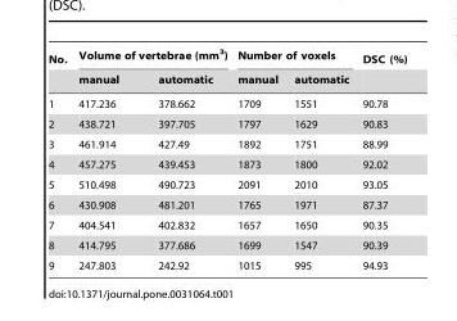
<table><thead><tr><td rowspan="2">No.</td><td colspan="2">Volume of vertebrae (mm<sup>3</sup>)</td><td colspan="2">Number of voxels</td><td rowspan="2">DSC (%)</td></tr><tr><td>manual</td><td>automatic</td><td>manual</td><td>automatic</td></tr></thead><tbody><tr><td>1</td><td>417.236</td><td>378.662</td><td>1709</td><td>1551</td><td>90.78</td></tr><tr><td>2</td><td>438.721</td><td>397.705</td><td>1797</td><td>1629</td><td>90.83</td></tr><tr><td>3</td><td>461.914</td><td>427.49</td><td>1892</td><td>1751</td><td>88.99</td></tr><tr><td>4</td><td>457.275</td><td>439.453</td><td>1873</td><td>1800</td><td>92.02</td></tr><tr><td>5</td><td>510.498</td><td>490.723</td><td>2091</td><td>2010</td><td>93.05</td></tr><tr><td>6</td><td>430.908</td><td>481.201</td><td>1765</td><td>1971</td><td>87.37</td></tr><tr><td>7</td><td>404.541</td><td>402.832</td><td>1657</td><td>1650</td><td>90.35</td></tr><tr><td>8</td><td>414.795</td><td>377.686</td><td>1699</td><td>1547</td><td>90.39</td></tr><tr><td>9</td><td>247.803</td><td>242.92</td><td>1015</td><td>995</td><td>94.93</td></tr></tbody></table>